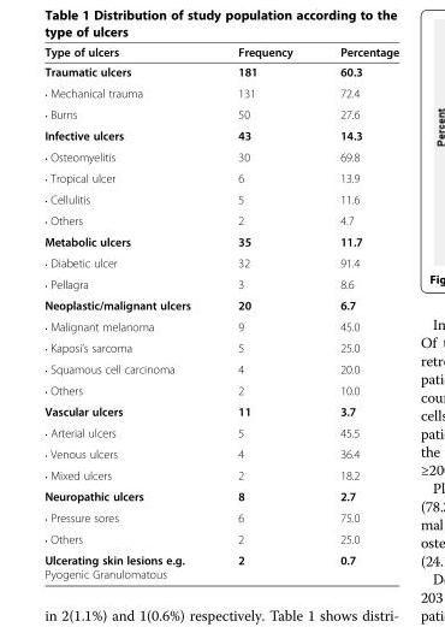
<table><thead><tr><td>Type of ulcers</td><td>Frequency</td><td>Percentage</td></tr></thead><tbody><tr><td>Traumatic ulcers</td><td>181</td><td>60.3</td></tr><tr><td>• Mechanical trauma</td><td>131</td><td>72.4</td></tr><tr><td>• Burns</td><td>50</td><td>27.6</td></tr><tr><td>Infective ulcers</td><td>43</td><td>14.3</td></tr><tr><td>• Osteomyelitis</td><td>30</td><td>69.8</td></tr><tr><td>• Tropical ulcer</td><td>6</td><td>13.9</td></tr><tr><td>• Cellulitis</td><td>5</td><td>11.6</td></tr><tr><td>• Others</td><td>2</td><td>4.7</td></tr><tr><td>Metabolic ulcers</td><td>35</td><td>11.7</td></tr><tr><td>• Diabetic ulcer</td><td>32</td><td>91.4</td></tr><tr><td>• Pellagra</td><td>3</td><td>8.6</td></tr><tr><td>Neoplastic/malignant ulcers</td><td>20</td><td>6.7</td></tr><tr><td>• Malignant melanoma</td><td>9</td><td>45.0</td></tr><tr><td>• Kaposi’s sarcoma</td><td>5</td><td>25.0</td></tr><tr><td>• Squamous cell carcinoma</td><td>4</td><td>20.0</td></tr><tr><td>• Others</td><td>2</td><td>10.0</td></tr><tr><td>Vascular ulcers</td><td>11</td><td>3.7</td></tr><tr><td>• Arterial ulcers</td><td>5</td><td>45.5</td></tr><tr><td>• Venous ulcers</td><td>4</td><td>36.4</td></tr><tr><td>• Mixed ulcers</td><td>2</td><td>18.2</td></tr><tr><td>Neuropathic ulcers</td><td>8</td><td>2.7</td></tr><tr><td>• Pressure sores</td><td>6</td><td>75.0</td></tr><tr><td>• Others</td><td>2</td><td>25.0</td></tr><tr><td>Ulcerating skin lesions e.g. Pyogenic Granulomatous</td><td>2</td><td>0.7</td></tr></tbody></table>